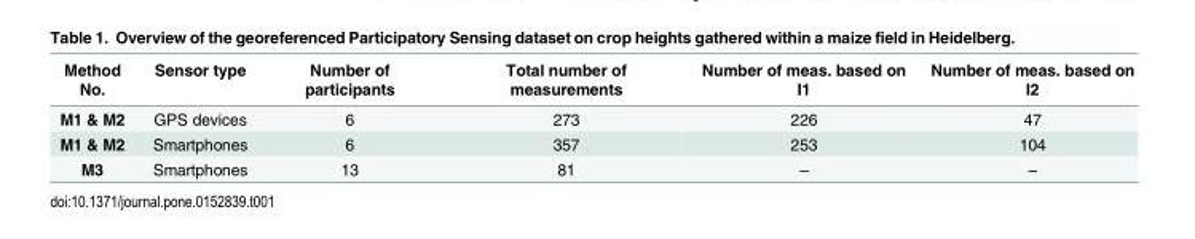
<table><thead><tr><td>Method No.</td><td>Sensor type</td><td>Number of participants</td><td>Total number of measurements</td><td>Number of meas. based on I1</td><td>Number of meas. based on I2</td></tr></thead><tbody><tr><td>M1 &amp; M2</td><td>GPS devices</td><td>6</td><td>273</td><td>226</td><td>47</td></tr><tr><td>M1 &amp; M2</td><td>Smartphones</td><td>6</td><td>357</td><td>253</td><td>104</td></tr><tr><td>M3</td><td>Smartphones</td><td>13</td><td>81</td><td>–</td><td>–</td></tr></tbody></table>